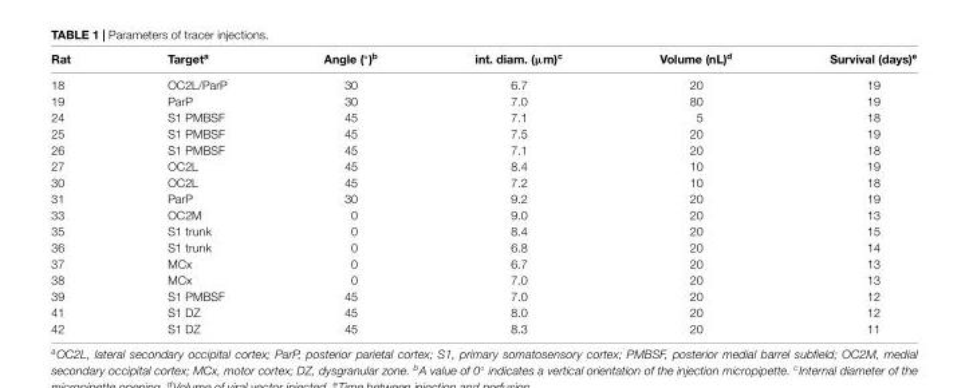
<table><thead><tr><td>Rat</td><td>Target<sup>a</sup></td><td>Angle (◦)b</td><td>int. diam. (µm)<sup>c</sup></td><td>Volume (nL)<sup>d</sup></td><td>Survival (days)<sup>e</sup></td></tr></thead><tbody><tr><td>18</td><td>OC2L/ParP</td><td>30</td><td>6.7</td><td>20</td><td>19</td></tr><tr><td>19</td><td>ParP</td><td>30</td><td>7.0</td><td>80</td><td>19</td></tr><tr><td>24</td><td>S1 PMBSF</td><td>45</td><td>7.1</td><td>5</td><td>18</td></tr><tr><td>25</td><td>S1 PMBSF</td><td>45</td><td>7.5</td><td>20</td><td>19</td></tr><tr><td>26</td><td>S1 PMBSF</td><td>45</td><td>7.1</td><td>20</td><td>18</td></tr><tr><td>27</td><td>OC2L</td><td>45</td><td>8.4</td><td>10</td><td>19</td></tr><tr><td>30</td><td>OC2L</td><td>45</td><td>7.2</td><td>10</td><td>18</td></tr><tr><td>31</td><td>ParP</td><td>30</td><td>9.2</td><td>20</td><td>19</td></tr><tr><td>33</td><td>OC2M</td><td>0</td><td>9.0</td><td>20</td><td>13</td></tr><tr><td>35</td><td>S1 trunk</td><td>0</td><td>8.4</td><td>20</td><td>15</td></tr><tr><td>36</td><td>S1 trunk</td><td>0</td><td>6.8</td><td>20</td><td>14</td></tr><tr><td>37</td><td>MCx</td><td>0</td><td>6.7</td><td>20</td><td>13</td></tr><tr><td>38</td><td>MCx</td><td>0</td><td>7.0</td><td>20</td><td>13</td></tr><tr><td>39</td><td>S1 PMBSF</td><td>45</td><td>7.0</td><td>20</td><td>12</td></tr><tr><td>41</td><td>S1 DZ</td><td>45</td><td>8.0</td><td>20</td><td>12</td></tr><tr><td>42</td><td>S1 DZ</td><td>45</td><td>8.3</td><td>20</td><td>11</td></tr></tbody></table>